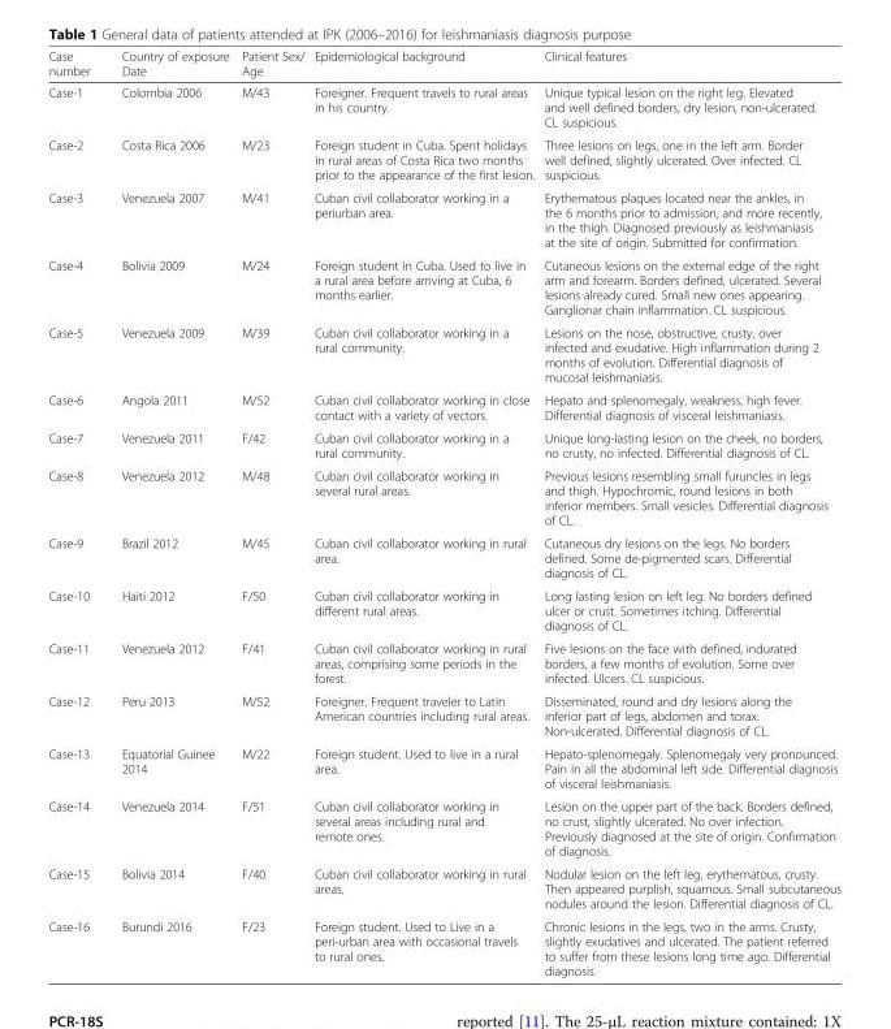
<table><thead><tr><td>Case number</td><td>Country of exposure Date</td><td>Patient Sex/ Age</td><td>Epidemiological background</td><td>Clinical features</td></tr></thead><tbody><tr><td>Case-1</td><td>Colombia 2006</td><td>M/43</td><td>Foreigner. Frequent travels to rural areas in his country.</td><td>Unique typical lesion on the right leg. Elevated and well defined borders, dry lesion, non-ulcerated. CL suspicious.</td></tr><tr><td>Case-2</td><td>Costa Rica 2006</td><td>M/23</td><td>Foreign student in Cuba. Spent holidays in rural areas of Costa Rica two months prior to the appearance of the first lesion.</td><td>Three lesions on legs, one in the left arm. Border well defined, slightly ulcerated. Over infected. CL suspicious.</td></tr><tr><td>Case-3</td><td>Venezuela 2007</td><td>M/41</td><td>Cuban civil collaborator working in a periurban area.</td><td>Erythematous plaques located near the ankles, in the 6 months prior to admission, and more recently, in the thigh. Diagnosed previously as leishmaniasis at the site of origin. Submitted for confirmation.</td></tr><tr><td>Case-4</td><td>Bolivia 2009</td><td>M/24</td><td>Foreign student in Cuba. Used to live in a rural area before arriving at Cuba, 6 months earlier.</td><td>Cutaneous lesions on the external edge of the right arm and forearm. Borders defined, ulcerated. Several lesions already cured. Small new ones appearing. Ganglionar chain inflammation. CL suspicious.</td></tr><tr><td>Case-5</td><td>Venezuela 2009</td><td>M/39</td><td>Cuban civil collaborator working in a rural community.</td><td>Lesions on the nose, obstructive, crusty, over infected and exudative. High inflammation during 2 months of evolution. Differential diagnosis of mucosal leishmaniasis.</td></tr><tr><td>Case-6</td><td>Angola 2011</td><td>M/52</td><td>Cuban civil collaborator working in close contact with a variety of vectors.</td><td>Hepato and splenomegaly, weakness, high fever. Differential diagnosis of visceral leishmaniasis.</td></tr><tr><td>Case-7</td><td>Venezuela 2011</td><td>F/42</td><td>Cuban civil collaborator working in a rural community.</td><td>Unique long-lasting lesion on the cheek, no borders, no crusty, no infected. Differential diagnosis of CL.</td></tr><tr><td>Case-8</td><td>Venezuela 2012</td><td>M/48</td><td>Cuban civil collaborator working in several rural areas.</td><td>Previous lesions resembling small furuncles in legs and thigh. Hypochromic, round lesions in both inferior members. Small vesicles. Differential diagnosis of CL.</td></tr><tr><td>Case-9</td><td>Brazil 2012</td><td>M/45</td><td>Cuban civil collaborator working in rural area.</td><td>Cutaneous dry lesions on the legs. No borders defined. Some de-pigmented scars. Differential diagnosis of CL.</td></tr><tr><td>Case-10</td><td>Haiti 2012</td><td>F/50</td><td>Cuban civil collaborator working in different rural areas.</td><td>Long lasting lesion on left leg. No borders defined ulcer or crust. Sometimes itching. Differential diagnosis of CL.</td></tr><tr><td>Case-11</td><td>Venezuela 2012</td><td>F/41</td><td>Cuban civil collaborator working in rural areas, comprising some periods in the forest.</td><td>Five lesions on the face with defined, indurated borders, a few months of evolution. Some over infected. Ulcers. CL suspicious.</td></tr><tr><td>Case-12</td><td>Peru 2013</td><td>M/52</td><td>Foreigner. Frequent traveler to Latin American countries including rural areas.</td><td>Disseminated, round and dry lesions along the inferior part of legs, abdomen and torax. Non-ulcerated. Differential diagnosis of CL.</td></tr><tr><td>Case-13</td><td>Equatorial Guinee 2014</td><td>M/22</td><td>Foreign student. Used to live in a rural area.</td><td>Hepato-splenomegaly. Splenomegaly very pronounced. Pain in all the abdominal left side. Differential diagnosis of visceral leishmaniasis.</td></tr><tr><td>Case-14</td><td>Venezuela 2014</td><td>F/51</td><td>Cuban civil collaborator working in several areas including rural and remote ones.</td><td>Lesion on the upper part of the back. Borders defined, no crust, slightly ulcerated. No over infection. Previously diagnosed at the site of origin. Confirmation of diagnosis.</td></tr><tr><td>Case-15</td><td>Bolivia 2014</td><td>F/40</td><td>Cuban civil collaborator working in rural areas.</td><td>Nodular lesion on the left leg, erythematous, crusty. Then appeared purplish, squamous. Small subcutaneous nodules around the lesion. Differential diagnosis of CL.</td></tr><tr><td>Case-16</td><td>Burundi 2016</td><td>F/23</td><td>Foreign student. Used to Live in a peri-urban area with occasional travels to rural ones.</td><td>Chronic lesions in the legs, two in the arms. Crusty, slightly exudatives and ulcerated. The patient referred to suffer from these lesions long time ago. Differential diagnosis.</td></tr></tbody></table>